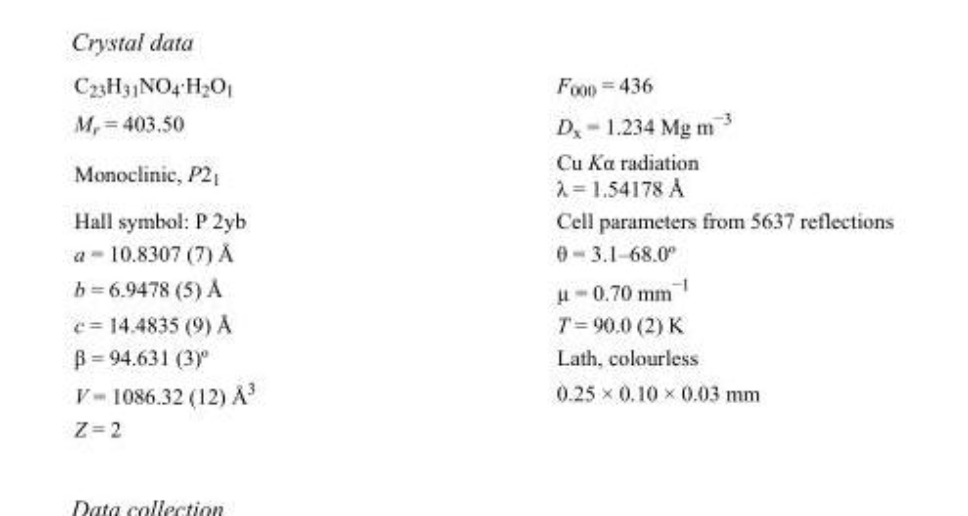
<table><tbody><tr><td>C<sub>23</sub>H<sub>31</sub>NO<sub>4</sub>·H<sub>2</sub>O<sub>1</sub></td><td>F<sub>000</sub> = 436</td></tr><tr><td>M<sub>r</sub> = 403.50</td><td>D<sub>x</sub> = 1.234 Mg m<sup>−3</sup></td></tr><tr><td>Monoclinic, P2<sub>1</sub></td><td>Cu Kα radiation λ = 1.54178 Å</td></tr><tr><td>Hall symbol: P 2yb</td><td>Cell parameters from 5637 reflections</td></tr><tr><td>a = 10.8307 (7) Å</td><td>θ = 3.1–68.0º</td></tr><tr><td>b = 6.9478 (5) Å</td><td>µ = 0.70 mm<sup>−1</sup></td></tr><tr><td>c = 14.4835 (9) Å</td><td>T = 90.0 (2) K</td></tr><tr><td>β = 94.631 (3)º</td><td>Lath, colourless</td></tr><tr><td>V = 1086.32 (12) Å<sup>3</sup></td><td>0.25 × 0.10 × 0.03 mm</td></tr><tr><td>Z = 2</td><td></td></tr></tbody></table>